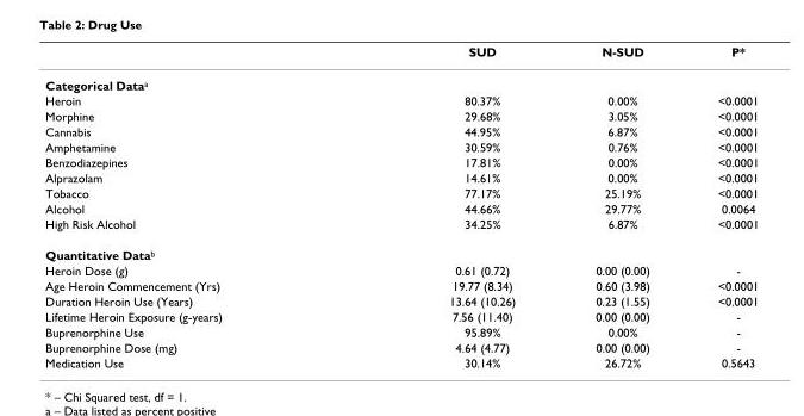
<table><thead><tr><td></td><td>SUD</td><td>N-SUD</td><td>P*</td></tr></thead><tbody><tr><td colspan="4">Categorical Data<sup>a</sup></td></tr><tr><td>Heroin</td><td>80.37%</td><td>0.00%</td><td>&lt;0.0001</td></tr><tr><td>Morphine</td><td>29.68%</td><td>3.05%</td><td>&lt;0.0001</td></tr><tr><td>Cannabis</td><td>44.95%</td><td>6.87%</td><td>&lt;0.0001</td></tr><tr><td>Amphetamine</td><td>30.59%</td><td>0.76%</td><td>&lt;0.0001</td></tr><tr><td>Benzodiazepines</td><td>17.81%</td><td>0.00%</td><td>&lt;0.0001</td></tr><tr><td>Alprazolam</td><td>14.61%</td><td>0.00%</td><td>&lt;0.0001</td></tr><tr><td>Tobacco</td><td>77.17%</td><td>25.19%</td><td>&lt;0.0001</td></tr><tr><td>Alcohol</td><td>44.66%</td><td>29.77%</td><td>0.0064</td></tr><tr><td>High Risk Alcohol</td><td>34.25%</td><td>6.87%</td><td>&lt;0.0001</td></tr><tr><td colspan="4">Quantitative Data<sup>b</sup></td></tr><tr><td>Heroin Dose (g)</td><td>0.61 (0.72)</td><td>0.00 (0.00)</td><td>-</td></tr><tr><td>Age Heroin Commencement (Yrs)</td><td>19.77 (8.34)</td><td>0.60 (3.98)</td><td>&lt;0.0001</td></tr><tr><td>Duration Heroin Use (Years)</td><td>13.64 (10.26)</td><td>0.23 (1.55)</td><td>&lt;0.0001</td></tr><tr><td>Lifetime Heroin Exposure (g-years)</td><td>7.56 (11.40)</td><td>0.00 (0.00)</td><td>-</td></tr><tr><td>Buprenorphine Use</td><td>95.89%</td><td>0.00%</td><td>-</td></tr><tr><td>Buprenorphine Dose (mg)</td><td>4.64 (4.77)</td><td>0.00 (0.00)</td><td>-</td></tr><tr><td>Medication Use</td><td>30.14%</td><td>26.72%</td><td>0.5643</td></tr></tbody></table>